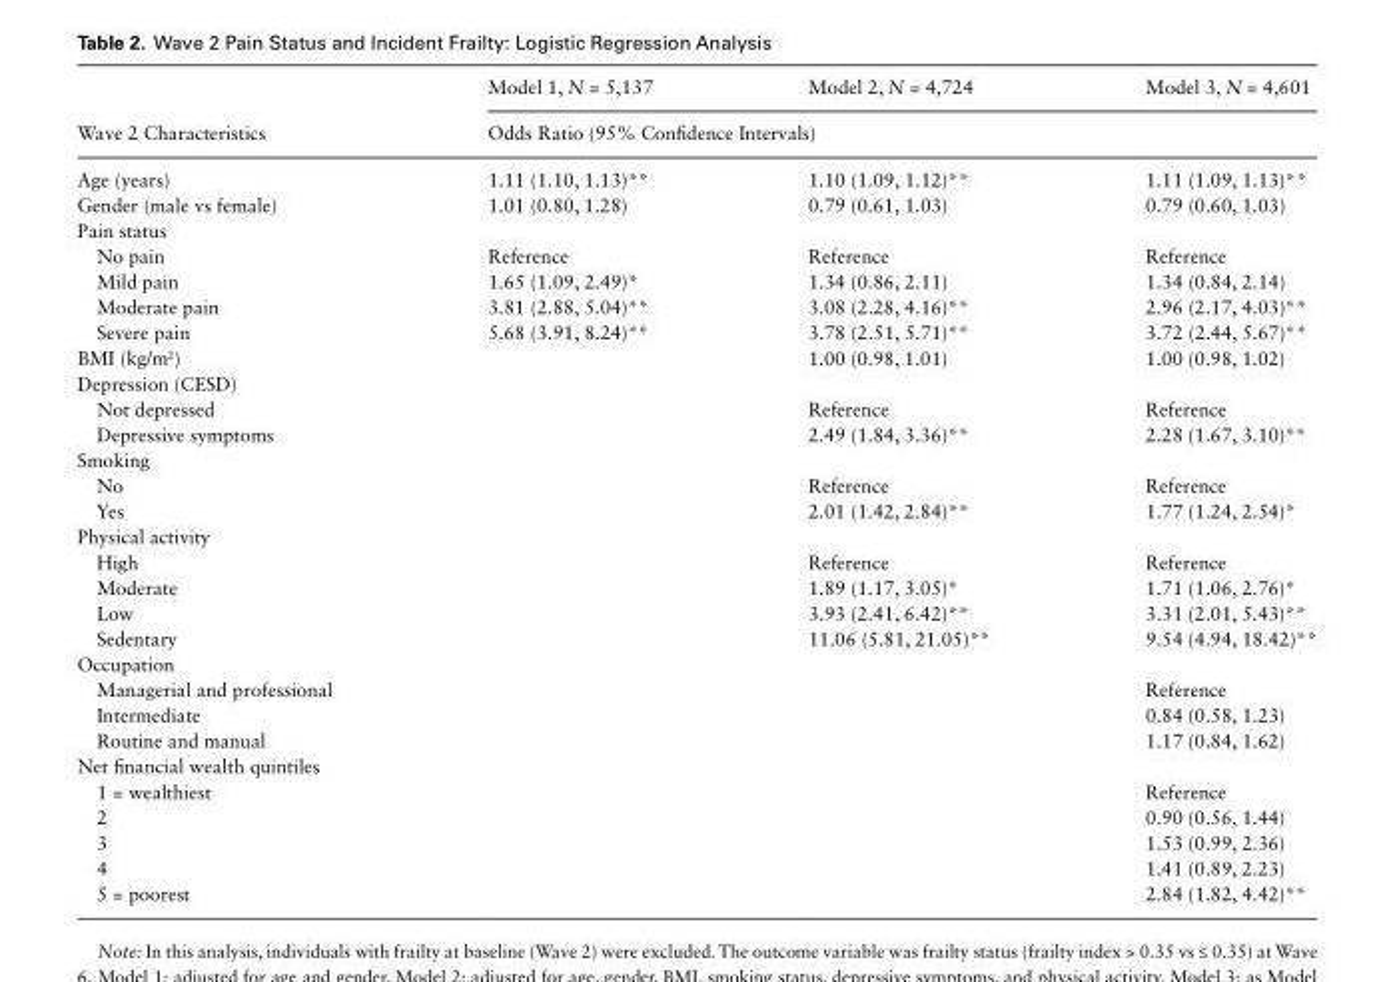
<table><thead><tr><td rowspan="2">Wave 2 Characteristics</td><td>Model 1, N = 5,137</td><td>Model 2, N = 4,724</td><td>Model 3, N = 4,601</td></tr><tr><td colspan="3">Odds Ratio (95% Confidence Intervals)</td></tr></thead><tbody><tr><td>Age (years)</td><td>1.11 (1.10, 1.13)**</td><td>1.10 (1.09, 1.12)**</td><td>1.11 (1.09, 1.13)**</td></tr><tr><td>Gender (male vs female)</td><td>1.01 (0.80, 1.28)</td><td>0.79 (0.61, 1.03)</td><td>0.79 (0.60, 1.03)</td></tr><tr><td colspan="4">Pain status</td></tr><tr><td>No pain</td><td>Reference</td><td>Reference</td><td>Reference</td></tr><tr><td>Mild pain</td><td>1.65 (1.09, 2.49)*</td><td>1.34 (0.86, 2.11)</td><td>1.34 (0.84, 2.14)</td></tr><tr><td>Moderate pain</td><td>3.81 (2.88, 5.04)**</td><td>3.08 (2.28, 4.16)**</td><td>2.96 (2.17, 4.03)**</td></tr><tr><td>Severe pain</td><td>5.68 (3.91, 8.24)**</td><td>3.78 (2.51, 5.71)**</td><td>3.72 (2.44, 5.67)**</td></tr><tr><td>BMI (kg/m<sup>2</sup>)</td><td></td><td>1.00 (0.98, 1.01)</td><td>1.00 (0.98, 1.02)</td></tr><tr><td colspan="4">Depression (CESD)</td></tr><tr><td>Not depressed</td><td></td><td>Reference</td><td>Reference</td></tr><tr><td>Depressive symptoms</td><td></td><td>2.49 (1.84, 3.36)**</td><td>2.28 (1.67, 3.10)**</td></tr><tr><td colspan="4">Smoking</td></tr><tr><td>No</td><td></td><td>Reference</td><td>Reference</td></tr><tr><td>Yes</td><td></td><td>2.01 (1.42, 2.84)**</td><td>1.77 (1.24, 2.54)*</td></tr><tr><td colspan="4">Physical activity</td></tr><tr><td>High</td><td></td><td>Reference</td><td>Reference</td></tr><tr><td>Moderate</td><td></td><td>1.89 (1.17, 3.05)*</td><td>1.71 (1.06, 2.76)*</td></tr><tr><td>Low</td><td></td><td>3.93 (2.41, 6.42)**</td><td>3.31 (2.01, 5.43)**</td></tr><tr><td>Sedentary</td><td></td><td>11.06 (5.81, 21.05)**</td><td>9.54 (4.94, 18.42)**</td></tr><tr><td colspan="4">Occupation</td></tr><tr><td>Managerial and professional</td><td></td><td></td><td>Reference</td></tr><tr><td>Intermediate</td><td></td><td></td><td>0.84 (0.58, 1.23)</td></tr><tr><td>Routine and manual</td><td></td><td></td><td>1.17 (0.84, 1.62)</td></tr><tr><td colspan="4">Net financial wealth quintiles</td></tr><tr><td>1 = wealthiest</td><td></td><td></td><td>Reference</td></tr><tr><td>2</td><td></td><td></td><td>0.90 (0.56, 1.44)</td></tr><tr><td>3</td><td></td><td></td><td>1.53 (0.99, 2.36)</td></tr><tr><td>4</td><td></td><td></td><td>1.41 (0.89, 2.23)</td></tr><tr><td>5 = poorest</td><td></td><td></td><td>2.84 (1.82, 4.42)**</td></tr></tbody></table>